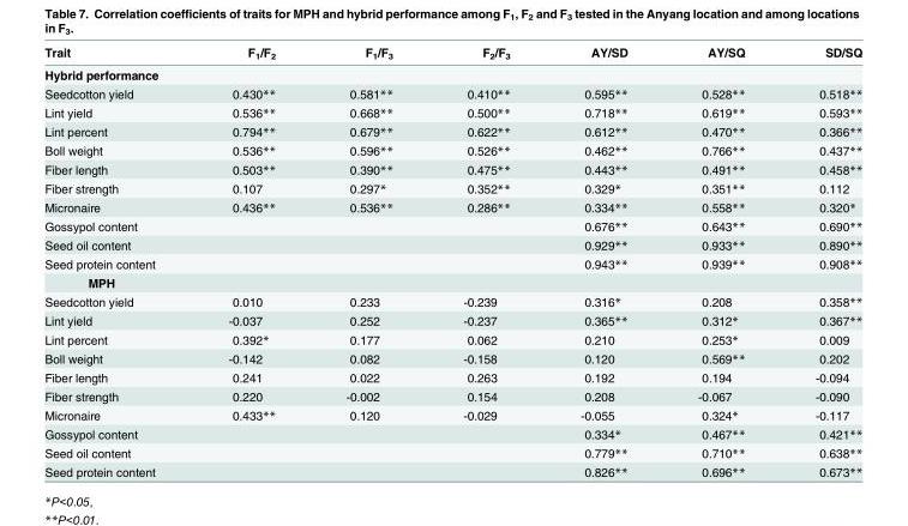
<table><thead><tr><td>Trait</td><td>F<sub>1</sub>/F<sub>2</sub></td><td>F<sub>1</sub>/F<sub>3</sub></td><td>F<sub>2</sub>/F<sub>3</sub></td><td>AY/SD</td><td>AY/SQ</td><td>SD/SQ</td></tr></thead><tbody><tr><td colspan="7">Hybrid performance</td></tr><tr><td>Seedcotton yield</td><td>0.430**</td><td>0.581**</td><td>0.410**</td><td>0.595**</td><td>0.528**</td><td>0.518**</td></tr><tr><td>Lint yield</td><td>0.536**</td><td>0.668**</td><td>0.500**</td><td>0.718**</td><td>0.619**</td><td>0.593**</td></tr><tr><td>Lint percent</td><td>0.794**</td><td>0.679**</td><td>0.622**</td><td>0.612**</td><td>0.470**</td><td>0.366**</td></tr><tr><td>Boll weight</td><td>0.536**</td><td>0.596**</td><td>0.526**</td><td>0.462**</td><td>0.766**</td><td>0.437**</td></tr><tr><td>Fiber length</td><td>0.503**</td><td>0.390**</td><td>0.475**</td><td>0.443**</td><td>0.491**</td><td>0.458**</td></tr><tr><td>Fiber strength</td><td>0.107</td><td>0.297*</td><td>0.352**</td><td>0.329*</td><td>0.351**</td><td>0.112</td></tr><tr><td>Micronaire</td><td>0.436**</td><td>0.536**</td><td>0.286**</td><td>0.334**</td><td>0.558**</td><td>0.320*</td></tr><tr><td>Gossypol content</td><td></td><td></td><td></td><td>0.676**</td><td>0.643**</td><td>0.690**</td></tr><tr><td>Seed oil content</td><td></td><td></td><td></td><td>0.929**</td><td>0.933**</td><td>0.890**</td></tr><tr><td>Seed protein content</td><td></td><td></td><td></td><td>0.943**</td><td>0.939**</td><td>0.908**</td></tr><tr><td colspan="7">MPH</td></tr><tr><td>Seedcotton yield</td><td>0.010</td><td>0.233</td><td>-0.239</td><td>0.316*</td><td>0.208</td><td>0.358**</td></tr><tr><td>Lint yield</td><td>-0.037</td><td>0.252</td><td>-0.237</td><td>0.365**</td><td>0.312*</td><td>0.367**</td></tr><tr><td>Lint percent</td><td>0.392*</td><td>0.177</td><td>0.062</td><td>0.210</td><td>0.253*</td><td>0.009</td></tr><tr><td>Boll weight</td><td>-0.142</td><td>0.082</td><td>-0.158</td><td>0.120</td><td>0.569**</td><td>0.202</td></tr><tr><td>Fiber length</td><td>0.241</td><td>0.022</td><td>0.263</td><td>0.192</td><td>0.194</td><td>-0.094</td></tr><tr><td>Fiber strength</td><td>0.220</td><td>-0.002</td><td>0.154</td><td>0.208</td><td>-0.067</td><td>-0.090</td></tr><tr><td>Micronaire</td><td>0.433**</td><td>0.120</td><td>-0.029</td><td>-0.055</td><td>0.324*</td><td>-0.117</td></tr><tr><td>Gossypol content</td><td></td><td></td><td></td><td>0.334*</td><td>0.467**</td><td>0.421**</td></tr><tr><td>Seed oil content</td><td></td><td></td><td></td><td>0.779**</td><td>0.710**</td><td>0.638**</td></tr><tr><td>Seed protein content</td><td></td><td></td><td></td><td>0.826**</td><td>0.696**</td><td>0.673**</td></tr></tbody></table>